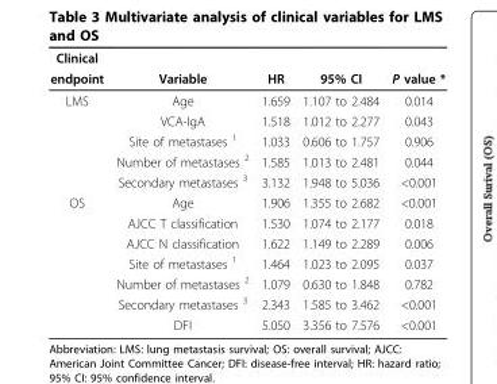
<table><thead><tr><td rowspan="2">Clinical endpoint</td><td rowspan="2">Variable</td><td rowspan="2">HR</td><td rowspan="2">95% CI</td><td rowspan="2">P value *</td></tr><tr></tr></thead><tbody><tr><td rowspan="5">LMS</td><td>Age</td><td>1.659</td><td>1.107 to 2.484</td><td>0.014</td></tr><tr><td>VCA-IgA</td><td>1.518</td><td>1.012 to 2.277</td><td>0.043</td></tr><tr><td>Site of metastases <sup>1</sup></td><td>1.033</td><td>0.606 to 1.757</td><td>0.906</td></tr><tr><td>Number of metastases <sup>2</sup></td><td>1.585</td><td>1.013 to 2.481</td><td>0.044</td></tr><tr><td>Secondary metastases <sup>3</sup></td><td>3.132</td><td>1.948 to 5.036</td><td>&lt;0.001</td></tr><tr><td rowspan="7">OS</td><td>Age</td><td>1.906</td><td>1.355 to 2.682</td><td>&lt;0.001</td></tr><tr><td>AJCC T classification</td><td>1.530</td><td>1.074 to 2.177</td><td>0.018</td></tr><tr><td>AJCC N classification</td><td>1.622</td><td>1.149 to 2.289</td><td>0.006</td></tr><tr><td>Site of metastases <sup>1</sup></td><td>1.464</td><td>1.023 to 2.095</td><td>0.037</td></tr><tr><td>Number of metastases <sup>2</sup></td><td>1.079</td><td>0.630 to 1.848</td><td>0.782</td></tr><tr><td>Secondary metastases <sup>3</sup></td><td>2.343</td><td>1.585 to 3.462</td><td>&lt;0.001</td></tr><tr><td>DFI</td><td>5.050</td><td>3.356 to 7.576</td><td>&lt;0.001</td></tr></tbody></table>